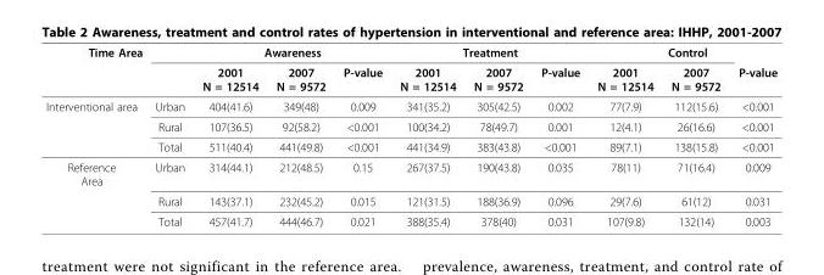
<table><thead><tr><td colspan="2">Time Area</td><td colspan="3">Awareness</td><td colspan="3">Treatment</td><td colspan="3">Control</td></tr><tr><td></td><td></td><td>2001 N = 12514</td><td>2007 N = 9572</td><td>P-value</td><td>2001 N = 12514</td><td>2007 N = 9572</td><td>P-value</td><td>2001 N = 12514</td><td>2007 N = 9572</td><td>P-value</td></tr></thead><tbody><tr><td rowspan="3">Interventional area</td><td>Urban</td><td>404(41.6)</td><td>349(48)</td><td>0.009</td><td>341(35.2)</td><td>305(42.5)</td><td>0.002</td><td>77(7.9)</td><td>112(15.6)</td><td>&lt;0.001</td></tr><tr><td>Rural</td><td>107(36.5)</td><td>92(58.2)</td><td>&lt;0.001</td><td>100(34.2)</td><td>78(49.7)</td><td>0.001</td><td>12(4.1)</td><td>26(16.6)</td><td>&lt;0.001</td></tr><tr><td>Total</td><td>511(40.4)</td><td>441(49.8)</td><td>&lt;0.001</td><td>441(34.9)</td><td>383(43.8)</td><td>&lt;0.001</td><td>89(7.1)</td><td>138(15.8)</td><td>&lt;0.001</td></tr><tr><td rowspan="3">Reference Area</td><td>Urban</td><td>314(44.1)</td><td>212(48.5)</td><td>0.15</td><td>267(37.5)</td><td>190(43.8)</td><td>0.035</td><td>78(11)</td><td>71(16.4)</td><td>0.009</td></tr><tr><td>Rural</td><td>143(37.1)</td><td>232(45.2)</td><td>0.015</td><td>121(31.5)</td><td>188(36.9)</td><td>0.096</td><td>29(7.6)</td><td>61(12)</td><td>0.031</td></tr><tr><td>Total</td><td>457(41.7)</td><td>444(46.7)</td><td>0.021</td><td>388(35.4)</td><td>378(40)</td><td>0.031</td><td>107(9.8)</td><td>132(14)</td><td>0.003</td></tr></tbody></table>